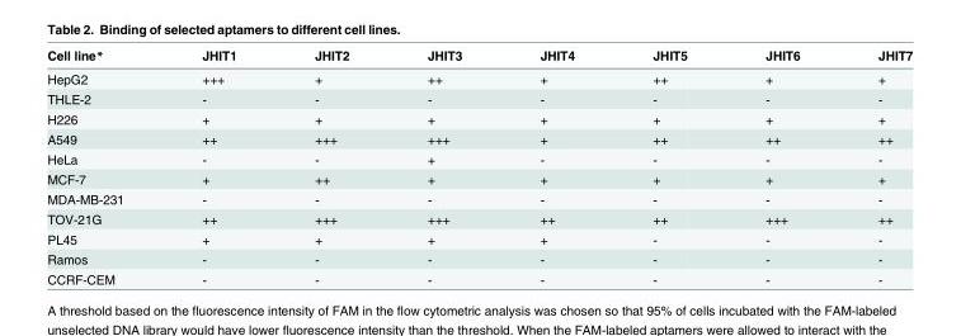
<table><thead><tr><td>Cell line*</td><td>JHIT1</td><td>JHIT2</td><td>JHIT3</td><td>JHIT4</td><td>JHIT5</td><td>JHIT6</td><td>JHIT7</td></tr></thead><tbody><tr><td>HepG2</td><td>+++</td><td>+</td><td>++</td><td>+</td><td>++</td><td>+</td><td>+</td></tr><tr><td>THLE-2</td><td>-</td><td>-</td><td>-</td><td>-</td><td>-</td><td>-</td><td>-</td></tr><tr><td>H226</td><td>+</td><td>+</td><td>+</td><td>+</td><td>+</td><td>+</td><td>+</td></tr><tr><td>A549</td><td>++</td><td>+++</td><td>+++</td><td>+</td><td>++</td><td>++</td><td>++</td></tr><tr><td>HeLa</td><td>-</td><td>-</td><td>+</td><td>-</td><td>-</td><td>-</td><td>-</td></tr><tr><td>MCF-7</td><td>+</td><td>++</td><td>+</td><td>+</td><td>+</td><td>+</td><td>+</td></tr><tr><td>MDA-MB-231</td><td>-</td><td>-</td><td>-</td><td>-</td><td>-</td><td>-</td><td>-</td></tr><tr><td>TOV-21G</td><td>++</td><td>+++</td><td>+++</td><td>++</td><td>++</td><td>+++</td><td>++</td></tr><tr><td>PL45</td><td>+</td><td>+</td><td>+</td><td>+</td><td>-</td><td>-</td><td>-</td></tr><tr><td>Ramos</td><td>-</td><td>-</td><td>-</td><td>-</td><td>-</td><td>-</td><td>-</td></tr><tr><td>CCRF-CEM</td><td>-</td><td>-</td><td>-</td><td>-</td><td>-</td><td>-</td><td>-</td></tr></tbody></table>